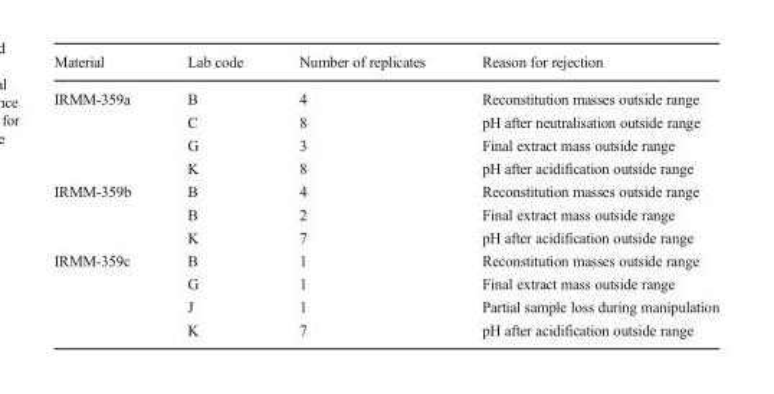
<table><thead><tr><td>Material</td><td>Lab code</td><td>Number of replicates</td><td>Reason for rejection</td></tr></thead><tbody><tr><td rowspan="4">IRMM-359a</td><td>B</td><td>4</td><td>Reconstitution masses outside range</td></tr><tr><td>C</td><td>8</td><td>pH after neutralisation outside range</td></tr><tr><td>G</td><td>3</td><td>Final extract mass outside range</td></tr><tr><td>K</td><td>8</td><td>pH after acidification outside range</td></tr><tr><td rowspan="3">IRMM-359b</td><td>B</td><td>4</td><td>Reconstitution masses outside range</td></tr><tr><td>B</td><td>2</td><td>Final extract mass outside range</td></tr><tr><td>K</td><td>7</td><td>pH after acidification outside range</td></tr><tr><td rowspan="4">IRMM-359c</td><td>B</td><td>1</td><td>Reconstitution masses outside range</td></tr><tr><td>G</td><td>1</td><td>Final extract mass outside range</td></tr><tr><td>J</td><td>1</td><td>Partial sample loss during manipulation</td></tr><tr><td>K</td><td>7</td><td>pH after acidification outside range</td></tr></tbody></table>